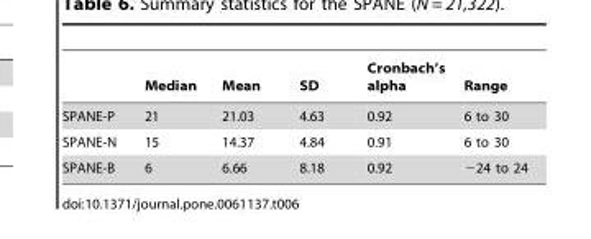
<table><thead><tr><td></td><td>Median</td><td>Mean</td><td>SD</td><td>Cronbach’s alpha</td><td>Range</td></tr></thead><tbody><tr><td>SPANE-P</td><td>21</td><td>21.03</td><td>4.63</td><td>0.92</td><td>6 to 30</td></tr><tr><td>SPANE-N</td><td>15</td><td>14.37</td><td>4.84</td><td>0.91</td><td>6 to 30</td></tr><tr><td>SPANE-B</td><td>6</td><td>6.66</td><td>8.18</td><td>0.92</td><td>−24 to 24</td></tr></tbody></table>